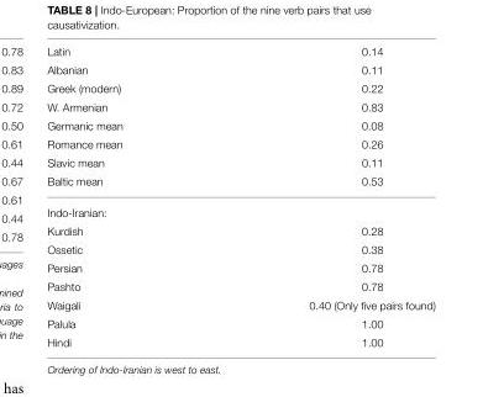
<table><tbody><tr><td>Latin</td><td>0.14</td></tr><tr><td>Albanian</td><td>0.11</td></tr><tr><td>Greek (modern)</td><td>0.22</td></tr><tr><td>W. Armenian</td><td>0.83</td></tr><tr><td>Germanic mean</td><td>0.08</td></tr><tr><td>Romance mean</td><td>0.26</td></tr><tr><td>Slavic mean</td><td>0.11</td></tr><tr><td>Baltic mean</td><td>0.53</td></tr><tr><td colspan="2">Indo-Iranian:</td></tr><tr><td>Kurdish</td><td>0.28</td></tr><tr><td>Ossetic</td><td>0.38</td></tr><tr><td>Persian</td><td>0.78</td></tr><tr><td>Pashto</td><td>0.78</td></tr><tr><td>Waigali</td><td>0.40 (Only five pairs found)</td></tr><tr><td>Palula</td><td>1.00</td></tr><tr><td>Hindi</td><td>1.00</td></tr></tbody></table>